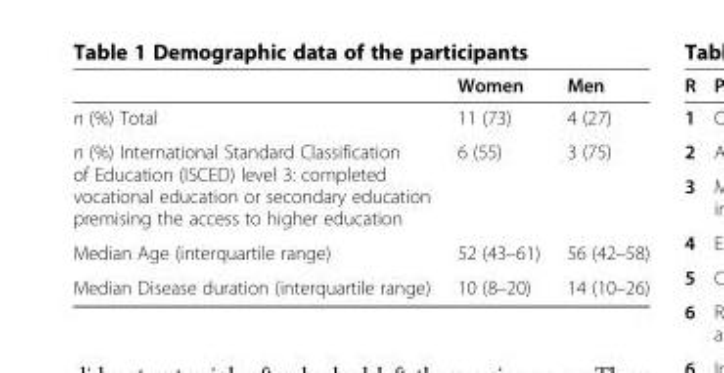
<table><thead><tr><td></td><td>Women</td><td>Men</td></tr></thead><tbody><tr><td>n (%) Total</td><td>11 (73)</td><td>4 (27)</td></tr><tr><td>n (%) International Standard Classification of Education (ISCED) level 3: completed vocational education or secondary education premising the access to higher education</td><td>6 (55)</td><td>3 (75)</td></tr><tr><td>Median Age (interquartile range)</td><td>52 (43–61)</td><td>56 (42–58)</td></tr><tr><td>Median Disease duration (interquartile range)</td><td>10 (8–20)</td><td>14 (10–26)</td></tr></tbody></table>